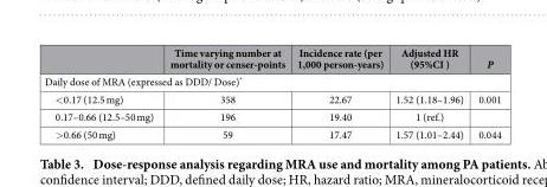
<table><thead><tr><td></td><td>Time varying number at mortality or censer-points</td><td>Incidence rate (per 1,000 person-years)</td><td>Adjusted HR (95%CI )</td><td>P</td></tr></thead><tbody><tr><td colspan="5">Daily dose of MRA (expressed as DDD/ Dose)*</td></tr><tr><td>&lt; 0.17 (12.5 mg)</td><td>358</td><td>22.67</td><td>1.52 (1.18–1.96)</td><td>0.001</td></tr><tr><td>0.17–0.66 (12.5–50 mg)</td><td>196</td><td>19.40</td><td>1 (ref.)</td><td></td></tr><tr><td>&gt; 0.66 (50 mg)</td><td>59</td><td>17.47</td><td>1.57 (1.01–2.44)</td><td>0.044</td></tr></tbody></table>